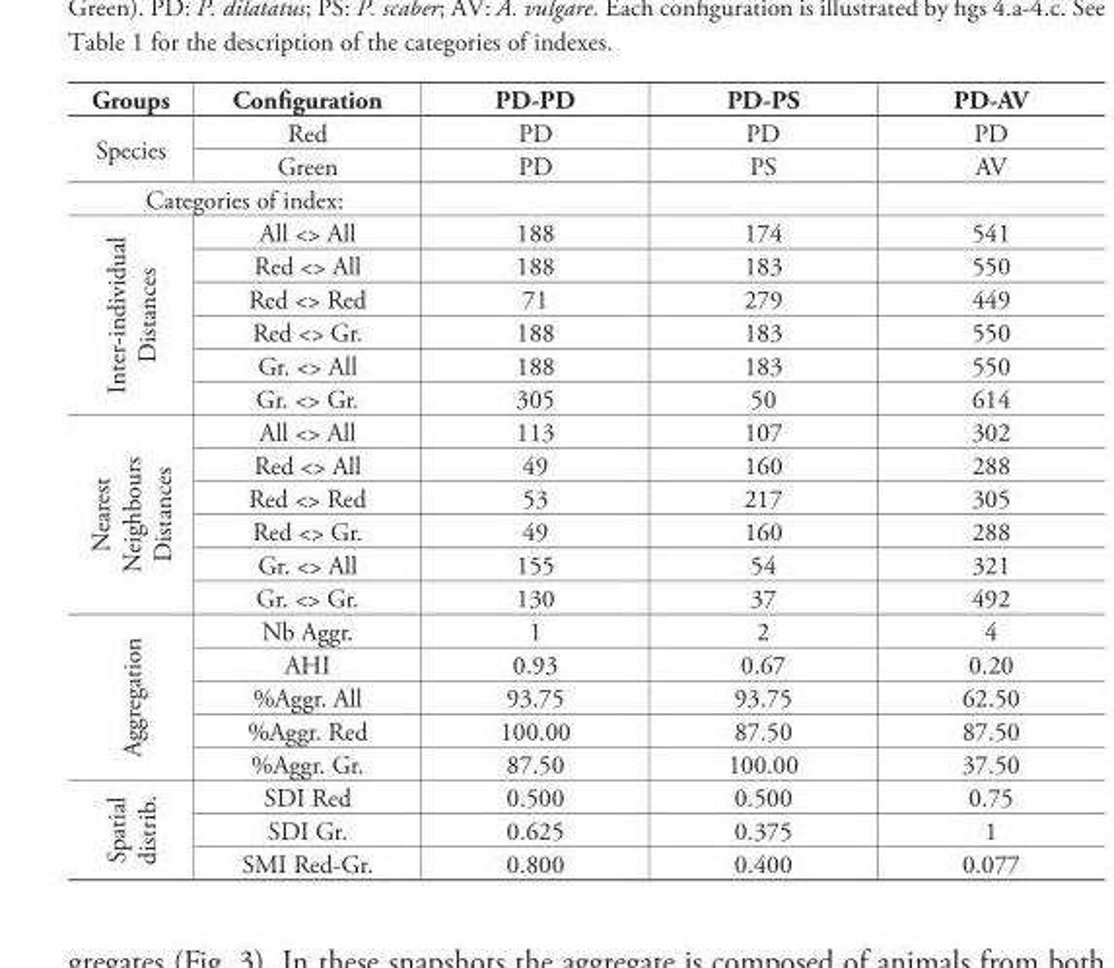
<table><thead><tr><td>Groups</td><td>Configuration</td><td>PD-PD</td><td>PD-PS</td><td>PD-AV</td></tr></thead><tbody><tr><td rowspan="2">Species</td><td>Red</td><td>PD</td><td>PD</td><td>PD</td></tr><tr><td>Green</td><td>PD</td><td>PS</td><td>AV</td></tr><tr><td colspan="5">Categories of index:</td></tr><tr><td rowspan="6">Inter-individual Distances</td><td>All &lt;&gt; All</td><td>188</td><td>174</td><td>541</td></tr><tr><td>Red &lt;&gt; All</td><td>188</td><td>183</td><td>550</td></tr><tr><td>Red &lt;&gt; Red</td><td>71</td><td>279</td><td>449</td></tr><tr><td>Red &lt;&gt; Gr.</td><td>188</td><td>183</td><td>550</td></tr><tr><td>Gr. &lt;&gt; All</td><td>188</td><td>183</td><td>550</td></tr><tr><td>Gr. &lt;&gt; Gr.</td><td>305</td><td>50</td><td>614</td></tr><tr><td rowspan="6">Nearest Neighbours Distances</td><td>All &lt;&gt; All</td><td>113</td><td>107</td><td>302</td></tr><tr><td>Red &lt;&gt; All</td><td>49</td><td>160</td><td>288</td></tr><tr><td>Red &lt;&gt; Red</td><td>53</td><td>217</td><td>305</td></tr><tr><td>Red &lt;&gt; Gr.</td><td>49</td><td>160</td><td>288</td></tr><tr><td>Gr. &lt;&gt; All</td><td>155</td><td>54</td><td>321</td></tr><tr><td>Gr. &lt;&gt; Gr.</td><td>130</td><td>37</td><td>492</td></tr><tr><td rowspan="5">Aggregation</td><td>Nb Aggr.</td><td>1</td><td>2</td><td>4</td></tr><tr><td>AHI</td><td>0.93</td><td>0.67</td><td>0.20</td></tr><tr><td>%Aggr. All</td><td>93.75</td><td>93.75</td><td>62.50</td></tr><tr><td>%Aggr. Red</td><td>100.00</td><td>87.50</td><td>87.50</td></tr><tr><td>%Aggr. Gr.</td><td>87.50</td><td>100.00</td><td>37.50</td></tr><tr><td rowspan="3">Spatial distrib.</td><td>SDI Red</td><td>0.500</td><td>0.500</td><td>0.75</td></tr><tr><td>SDI Gr.</td><td>0.625</td><td>0.375</td><td>1</td></tr><tr><td>SMI Red-Gr.</td><td>0.800</td><td>0.400</td><td>0.077</td></tr></tbody></table>